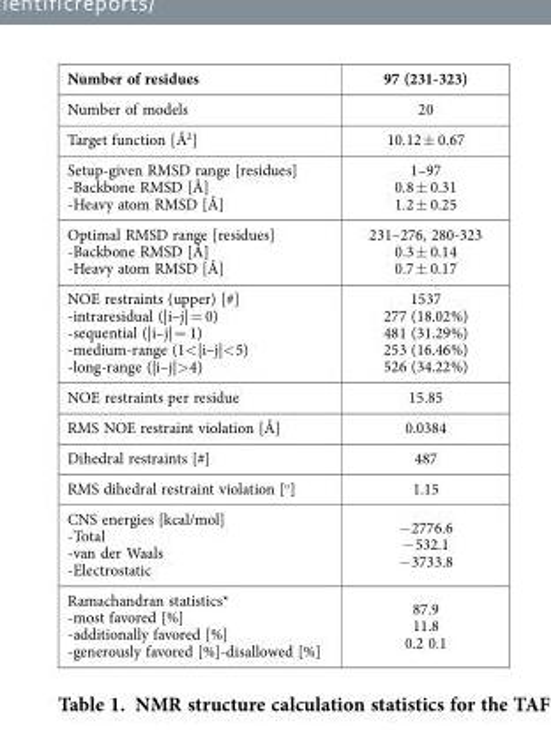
<table><tbody><tr><td>Number of residues</td><td>97 (231-323)</td></tr><tr><td>Number of models</td><td>20</td></tr><tr><td>Target function [Å<sup>2</sup>]</td><td>10.12 ± 0.67</td></tr><tr><td>Setup-given RMSD range [residues] -Backbone RMSD [Å] -Heavy atom RMSD [Å]</td><td>1–97 0.8 ± 0.31 1.2 ± 0.25</td></tr><tr><td>Optimal RMSD range [residues] -Backbone RMSD [Å] -Heavy atom RMSD [Å]</td><td>231–276, 280-323 0.3 ± 0.14 0.7 ± 0.17</td></tr><tr><td>NOE restraints (upper) [#] -intraresidual (|i–j| = 0) -sequential (|i–j| = 1) -medium-range (1&lt; |i–j|&lt; 5) -long-range (|i–j|&gt; 4)</td><td>1537 277 (18.02%) 481 (31.29%) 253 (16.46%) 526 (34.22%)</td></tr><tr><td>NOE restraints per residue</td><td>15.85</td></tr><tr><td>RMS NOE restraint violation [Å]</td><td>0.0384</td></tr><tr><td>Dihedral restraints [#]</td><td>487</td></tr><tr><td>RMS dihedral restraint violation [<sup>ο</sup>]</td><td>1.15</td></tr><tr><td>CNS energies [kcal/mol] -Total -van der Waals -Electrostatic</td><td>− 2776.6 − 532.1 − 3733.8</td></tr><tr><td>Ramachandran statistics* -most favored [%] -additionally favored [%] -generously favored [%]-disallowed [%]</td><td>87.9 11.8 0.2 0.1</td></tr></tbody></table>